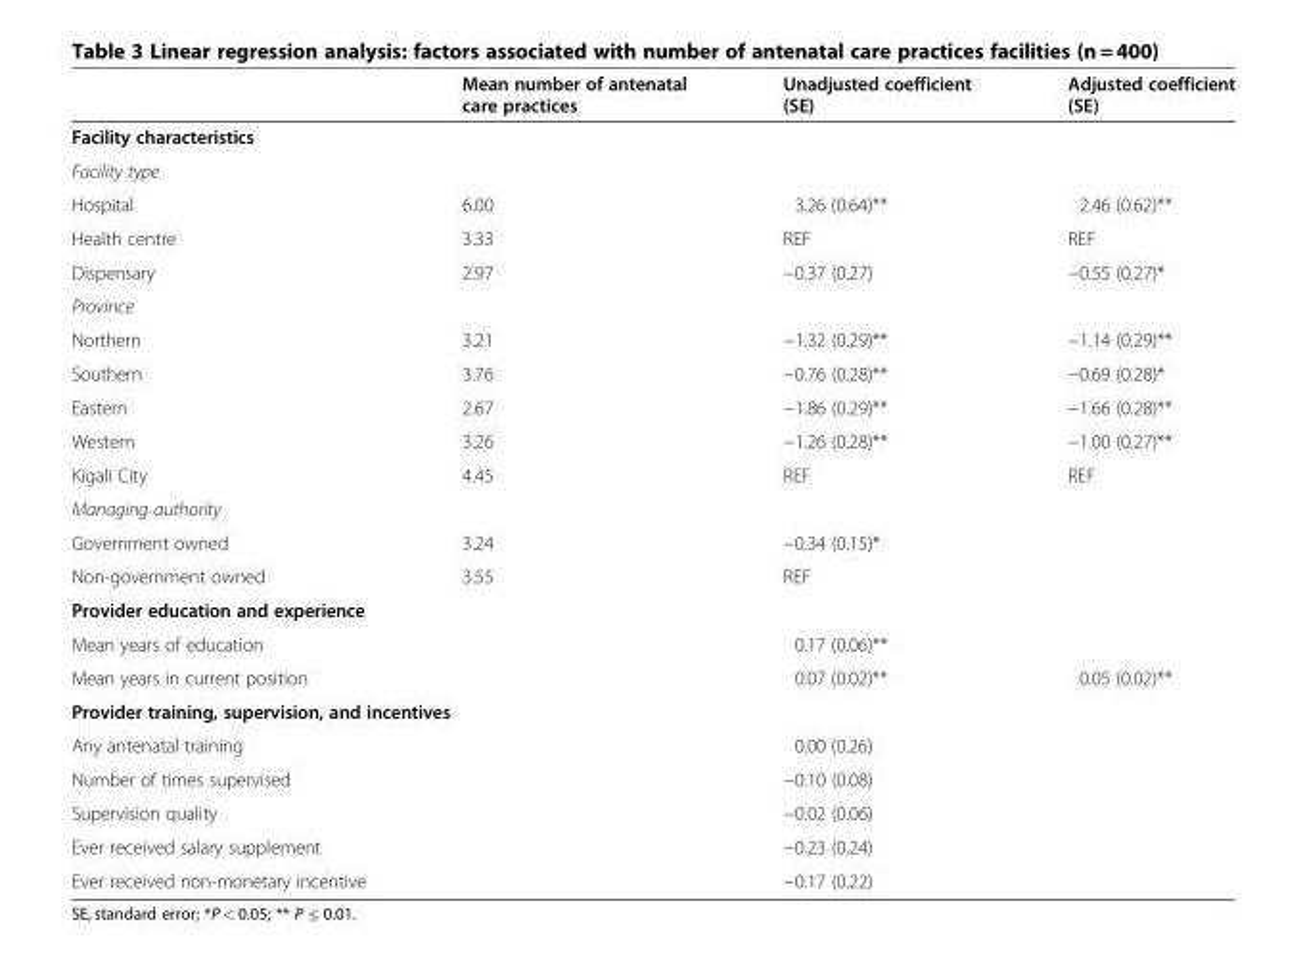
<table><thead><tr><td></td><td>Mean number of antenatal care practices</td><td>Unadjusted coefficient (SE)</td><td>Adjusted coefficient (SE)</td></tr></thead><tbody><tr><td colspan="4">Facility characteristics</td></tr><tr><td colspan="4">Facility type</td></tr><tr><td>Hospital</td><td>6.00</td><td>3.26 (0.64)**</td><td>2.46 (0.62)**</td></tr><tr><td>Health centre</td><td>3.33</td><td>REF</td><td>REF</td></tr><tr><td>Dispensary</td><td>2.97</td><td>−0.37 (0.27)</td><td>−0.55 (0.27)*</td></tr><tr><td colspan="4">Province</td></tr><tr><td>Northern</td><td>3.21</td><td>−1.32 (0.29)**</td><td>−1.14 (0.29)**</td></tr><tr><td>Southern</td><td>3.76</td><td>−0.76 (0.28)**</td><td>−0.69 (0.28)*</td></tr><tr><td>Eastern</td><td>2.67</td><td>−1.86 (0.29)**</td><td>−1.66 (0.28)**</td></tr><tr><td>Western</td><td>3.26</td><td>−1.26 (0.28)**</td><td>−1.00 (0.27)**</td></tr><tr><td>Kigali City</td><td>4.45</td><td>REF</td><td>REF</td></tr><tr><td colspan="4">Managing authority</td></tr><tr><td>Government owned</td><td>3.24</td><td>−0.34 (0.15)*</td><td></td></tr><tr><td>Non-government owned</td><td>3.55</td><td>REF</td><td></td></tr><tr><td colspan="4">Provider education and experience</td></tr><tr><td>Mean years of education</td><td></td><td>0.17 (0.06)**</td><td></td></tr><tr><td>Mean years in current position</td><td></td><td>0.07 (0.02)**</td><td>0.05 (0.02)**</td></tr><tr><td colspan="4">Provider training, supervision, and incentives</td></tr><tr><td>Any antenatal training</td><td></td><td>0.00 (0.26)</td><td></td></tr><tr><td>Number of times supervised</td><td></td><td>−0.10 (0.08)</td><td></td></tr><tr><td>Supervision quality</td><td></td><td>−0.02 (0.06)</td><td></td></tr><tr><td>Ever received salary supplement</td><td></td><td>−0.23 (0.24)</td><td></td></tr><tr><td>Ever received non-monetary incentive</td><td></td><td>−0.17 (0.22)</td><td></td></tr></tbody></table>